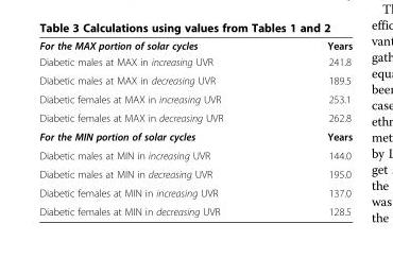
<table><thead><tr><td>For the MAX portion of solar cycles</td><td>Years</td></tr></thead><tbody><tr><td>Diabetic males at MAX in increasing UVR</td><td>241.8</td></tr><tr><td>Diabetic males at MAX in decreasing UVR</td><td>189.5</td></tr><tr><td>Diabetic females at MAX in increasing UVR</td><td>253.1</td></tr><tr><td>Diabetic females at MAX in decreasing UVR</td><td>262.8</td></tr><tr><td>For the MIN portion of solar cycles</td><td>Years</td></tr><tr><td>Diabetic males at MIN in increasing UVR</td><td>144.0</td></tr><tr><td>Diabetic males at MIN in decreasing UVR</td><td>195.0</td></tr><tr><td>Diabetic females at MIN in increasing UVR</td><td>137.0</td></tr><tr><td>Diabetic females at MIN in decreasing UVR</td><td>128.5</td></tr></tbody></table>